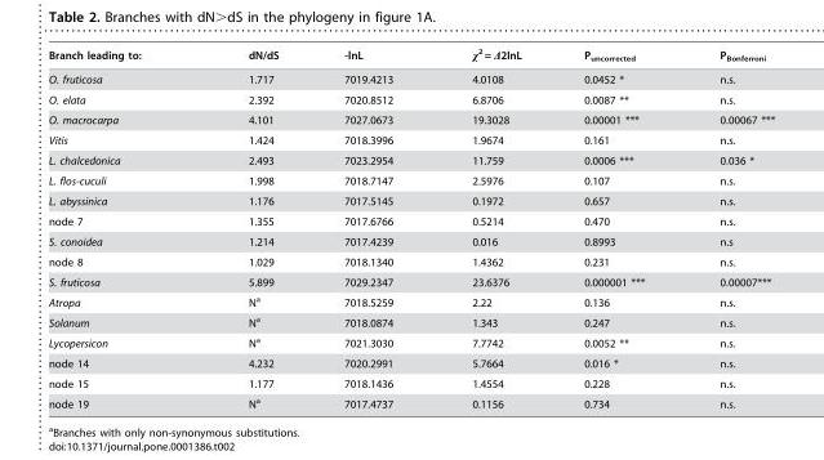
<table><thead><tr><td>Branch leading to:</td><td>dN/dS</td><td>-lnL</td><td>χ<sup>2</sup> = Δ2lnL</td><td>P<sub>uncorrected</sub></td><td>P<sub>Bonferroni</sub></td></tr></thead><tbody><tr><td>O. fruticosa</td><td>1.717</td><td>7019.4213</td><td>4.0108</td><td>0.0452 *</td><td>n.s.</td></tr><tr><td>O. elata</td><td>2.392</td><td>7020.8512</td><td>6.8706</td><td>0.0087 **</td><td>n.s.</td></tr><tr><td>O. macrocarpa</td><td>4.101</td><td>7027.0673</td><td>19.3028</td><td>0.00001 ***</td><td>0.00067 ***</td></tr><tr><td>Vitis</td><td>1.424</td><td>7018.3996</td><td>1.9674</td><td>0.161</td><td>n.s.</td></tr><tr><td>L. chalcedonica</td><td>2.493</td><td>7023.2954</td><td>11.759</td><td>0.0006 ***</td><td>0.036 *</td></tr><tr><td>L. flos-cuculi</td><td>1.998</td><td>7018.7147</td><td>2.5976</td><td>0.107</td><td>n.s.</td></tr><tr><td>L. abyssinica</td><td>1.176</td><td>7017.5145</td><td>0.1972</td><td>0.657</td><td>n.s.</td></tr><tr><td>node 7</td><td>1.355</td><td>7017.6766</td><td>0.5214</td><td>0.470</td><td>n.s.</td></tr><tr><td>S. conoidea</td><td>1.214</td><td>7017.4239</td><td>0.016</td><td>0.8993</td><td>n.s</td></tr><tr><td>node 8</td><td>1.029</td><td>7018.1340</td><td>1.4362</td><td>0.231</td><td>n.s.</td></tr><tr><td>S. fruticosa</td><td>5.899</td><td>7029.2347</td><td>23.6376</td><td>0.000001 ***</td><td>0.00007***</td></tr><tr><td>Atropa</td><td>N<sup>a</sup></td><td>7018.5259</td><td>2.22</td><td>0.136</td><td>n.s.</td></tr><tr><td>Solanum</td><td>N<sup>a</sup></td><td>7018.0874</td><td>1.343</td><td>0.247</td><td>n.s.</td></tr><tr><td>Lycopersicon</td><td>N<sup>a</sup></td><td>7021.3030</td><td>7.7742</td><td>0.0052 **</td><td>n.s.</td></tr><tr><td>node 14</td><td>4.232</td><td>7020.2991</td><td>5.7664</td><td>0.016 *</td><td>n.s.</td></tr><tr><td>node 15</td><td>1.177</td><td>7018.1436</td><td>1.4554</td><td>0.228</td><td>n.s.</td></tr><tr><td>node 19</td><td>N<sup>a</sup></td><td>7017.4737</td><td>0.1156</td><td>0.734</td><td>n.s.</td></tr></tbody></table>